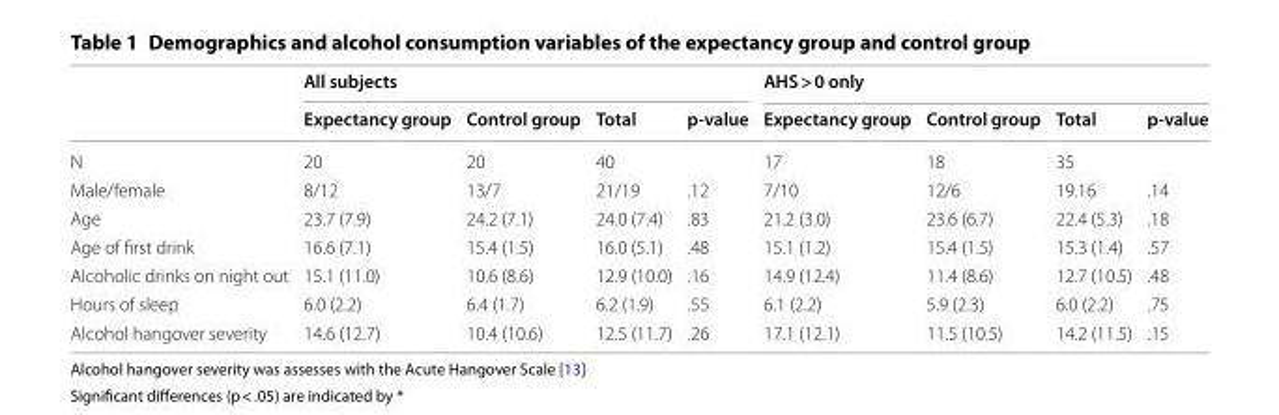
<table><thead><tr><td rowspan="2"></td><td colspan="4">All subjects</td><td colspan="4">AHS &gt; 0 only</td></tr><tr><td>Expectancy group</td><td>Control group</td><td>Total</td><td>p-value</td><td>Expectancy group</td><td>Control group</td><td>Total</td><td>p-value</td></tr></thead><tbody><tr><td>N</td><td>20</td><td>20</td><td>40</td><td></td><td>17</td><td>18</td><td>35</td><td></td></tr><tr><td>Male/female</td><td>8/12</td><td>13/7</td><td>21/19</td><td>.12</td><td>7/10</td><td>12/6</td><td>19.16</td><td>.14</td></tr><tr><td>Age</td><td>23.7 (7.9)</td><td>24.2 (7.1)</td><td>24.0 (7.4)</td><td>.83</td><td>21.2 (3.0)</td><td>23.6 (6.7)</td><td>22.4 (5.3)</td><td>.18</td></tr><tr><td>Age of first drink</td><td>16.6 (7.1)</td><td>15.4 (1.5)</td><td>16.0 (5.1)</td><td>.48</td><td>15.1 (1.2)</td><td>15.4 (1.5)</td><td>15.3 (1.4)</td><td>.57</td></tr><tr><td>Alcoholic drinks on night out</td><td>15.1 (11.0)</td><td>10.6 (8.6)</td><td>12.9 (10.0)</td><td>.16</td><td>14.9 (12.4)</td><td>11.4 (8.6)</td><td>12.7 (10.5)</td><td>.48</td></tr><tr><td>Hours of sleep</td><td>6.0 (2.2)</td><td>6.4 (1.7)</td><td>6.2 (1.9)</td><td>.55</td><td>6.1 (2.2)</td><td>5.9 (2.3)</td><td>6.0 (2.2)</td><td>.75</td></tr><tr><td>Alcohol hangover severity</td><td>14.6 (12.7)</td><td>10.4 (10.6)</td><td>12.5 (11.7)</td><td>.26</td><td>17.1 (12.1)</td><td>11.5 (10.5)</td><td>14.2 (11.5)</td><td>.15</td></tr></tbody></table>